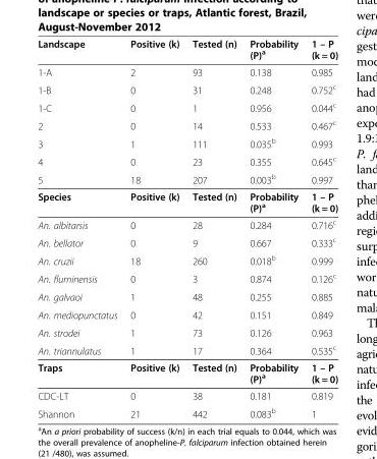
<table><thead><tr><td>Landscape</td><td>Positive (k)</td><td>Tested (n)</td><td>Probability (P)<sup>a</sup></td><td>1 – P (k = 0)</td></tr></thead><tbody><tr><td>1-A</td><td>2</td><td>93</td><td>0.138</td><td>0.985</td></tr><tr><td>1-B</td><td>0</td><td>31</td><td>0.248</td><td>0.752<sup>c</sup></td></tr><tr><td>1-C</td><td>0</td><td>1</td><td>0.956</td><td>0.044<sup>c</sup></td></tr><tr><td>2</td><td>0</td><td>14</td><td>0.533</td><td>0.467<sup>c</sup></td></tr><tr><td>3</td><td>1</td><td>111</td><td>0.035<sup>b</sup></td><td>0.993</td></tr><tr><td>4</td><td>0</td><td>23</td><td>0.355</td><td>0.645<sup>c</sup></td></tr><tr><td>5</td><td>18</td><td>207</td><td>0.003<sup>b</sup></td><td>0.997</td></tr><tr><td>Species</td><td>Positive (k)</td><td>Tested (n)</td><td>Probability (P)<sup>a</sup></td><td>1 – P (k = 0)</td></tr><tr><td>An. albitarsis</td><td>0</td><td>28</td><td>0.284</td><td>0.716<sup>c</sup></td></tr><tr><td>An. bellator</td><td>0</td><td>9</td><td>0.667</td><td>0.333<sup>c</sup></td></tr><tr><td>An. cruzii</td><td>18</td><td>260</td><td>0.018<sup>b</sup></td><td>0.999</td></tr><tr><td>An. fluminensis</td><td>0</td><td>3</td><td>0.874</td><td>0.126<sup>c</sup></td></tr><tr><td>An. galvaoi</td><td>1</td><td>48</td><td>0.255</td><td>0.885</td></tr><tr><td>An. mediopunctatus</td><td>0</td><td>42</td><td>0.151</td><td>0.849</td></tr><tr><td>An. strodei</td><td>1</td><td>73</td><td>0.126</td><td>0.963</td></tr><tr><td>An. triannulatus</td><td>1</td><td>17</td><td>0.364</td><td>0.535<sup>c</sup></td></tr><tr><td>Traps</td><td>Positive (k)</td><td>Tested (n)</td><td>Probability (P)<sup>a</sup></td><td>1 – P (k = 0)</td></tr><tr><td>CDC-LT</td><td>0</td><td>38</td><td>0.181</td><td>0.819</td></tr><tr><td>Shannon</td><td>21</td><td>442</td><td>0.083<sup>b</sup></td><td>1</td></tr></tbody></table>